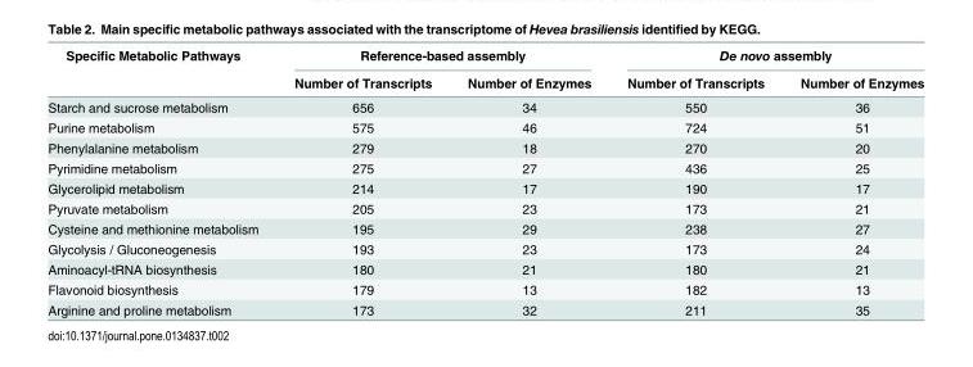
<table><thead><tr><td rowspan="2">Specific Metabolic Pathways</td><td colspan="2">Reference-based assembly</td><td colspan="2">De novo assembly</td></tr><tr><td>Number of Transcripts</td><td>Number of Enzymes</td><td>Number of Transcripts</td><td>Number of Enzymes</td></tr></thead><tbody><tr><td>Starch and sucrose metabolism</td><td>656</td><td>34</td><td>550</td><td>36</td></tr><tr><td>Purine metabolism</td><td>575</td><td>46</td><td>724</td><td>51</td></tr><tr><td>Phenylalanine metabolism</td><td>279</td><td>18</td><td>270</td><td>20</td></tr><tr><td>Pyrimidine metabolism</td><td>275</td><td>27</td><td>436</td><td>25</td></tr><tr><td>Glycerolipid metabolism</td><td>214</td><td>17</td><td>190</td><td>17</td></tr><tr><td>Pyruvate metabolism</td><td>205</td><td>23</td><td>173</td><td>21</td></tr><tr><td>Cysteine and methionine metabolism</td><td>195</td><td>29</td><td>238</td><td>27</td></tr><tr><td>Glycolysis / Gluconeogenesis</td><td>193</td><td>23</td><td>173</td><td>24</td></tr><tr><td>Aminoacyl-tRNA biosynthesis</td><td>180</td><td>21</td><td>180</td><td>21</td></tr><tr><td>Flavonoid biosynthesis</td><td>179</td><td>13</td><td>182</td><td>13</td></tr><tr><td>Arginine and proline metabolism</td><td>173</td><td>32</td><td>211</td><td>35</td></tr></tbody></table>